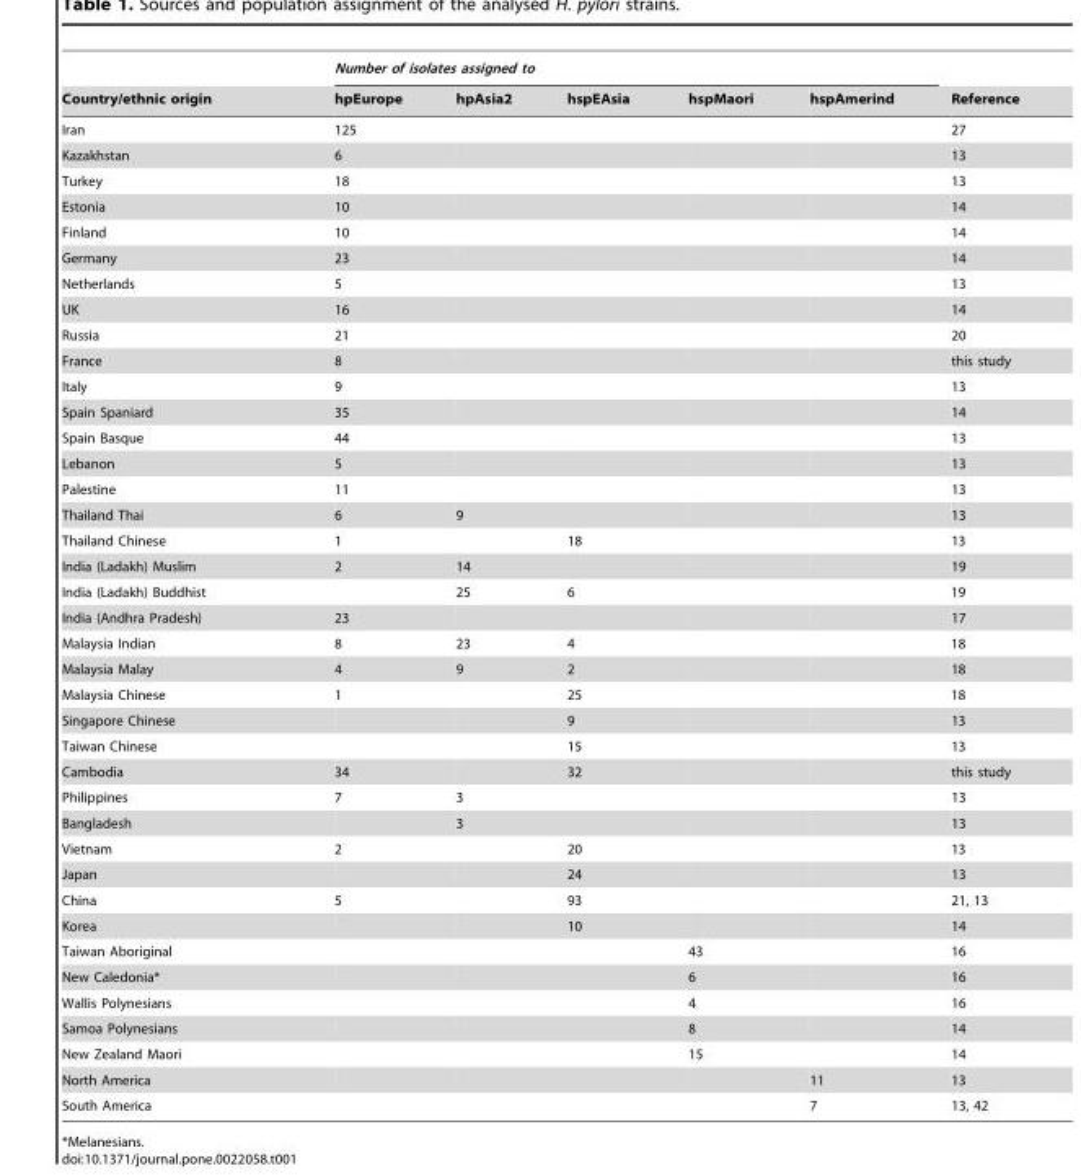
<table><thead><tr><td rowspan="2">Country/ethnic origin</td><td colspan="5">Number of isolates assigned to</td><td rowspan="2">Reference</td></tr><tr><td>hpEurope</td><td>hpAsia2</td><td>hspEAsia</td><td>hspMaori</td><td>hspAmerind</td></tr></thead><tbody><tr><td>Iran</td><td>125</td><td></td><td></td><td></td><td></td><td>27</td></tr><tr><td>Kazakhstan</td><td>6</td><td></td><td></td><td></td><td></td><td>13</td></tr><tr><td>Turkey</td><td>18</td><td></td><td></td><td></td><td></td><td>13</td></tr><tr><td>Estonia</td><td>10</td><td></td><td></td><td></td><td></td><td>14</td></tr><tr><td>Finland</td><td>10</td><td></td><td></td><td></td><td></td><td>14</td></tr><tr><td>Germany</td><td>23</td><td></td><td></td><td></td><td></td><td>14</td></tr><tr><td>Netherlands</td><td>5</td><td></td><td></td><td></td><td></td><td>13</td></tr><tr><td>UK</td><td>16</td><td></td><td></td><td></td><td></td><td>14</td></tr><tr><td>Russia</td><td>21</td><td></td><td></td><td></td><td></td><td>20</td></tr><tr><td>France</td><td>8</td><td></td><td></td><td></td><td></td><td>this study</td></tr><tr><td>Italy</td><td>9</td><td></td><td></td><td></td><td></td><td>13</td></tr><tr><td>Spain Spaniard</td><td>35</td><td></td><td></td><td></td><td></td><td>14</td></tr><tr><td>Spain Basque</td><td>44</td><td></td><td></td><td></td><td></td><td>13</td></tr><tr><td>Lebanon</td><td>5</td><td></td><td></td><td></td><td></td><td>13</td></tr><tr><td>Palestine</td><td>11</td><td></td><td></td><td></td><td></td><td>13</td></tr><tr><td>Thailand Thai</td><td>6</td><td>9</td><td></td><td></td><td></td><td>13</td></tr><tr><td>Thailand Chinese</td><td>1</td><td></td><td>18</td><td></td><td></td><td>13</td></tr><tr><td>India (Ladakh) Muslim</td><td>2</td><td>14</td><td></td><td></td><td></td><td>19</td></tr><tr><td>India (Ladakh) Buddhist</td><td></td><td>25</td><td>6</td><td></td><td></td><td>19</td></tr><tr><td>India (Andhra Pradesh)</td><td>23</td><td></td><td></td><td></td><td></td><td>17</td></tr><tr><td>Malaysia Indian</td><td>8</td><td>23</td><td>4</td><td></td><td></td><td>18</td></tr><tr><td>Malaysia Malay</td><td>4</td><td>9</td><td>2</td><td></td><td></td><td>18</td></tr><tr><td>Malaysia Chinese</td><td>1</td><td></td><td>25</td><td></td><td></td><td>18</td></tr><tr><td>Singapore Chinese</td><td></td><td></td><td>9</td><td></td><td></td><td>13</td></tr><tr><td>Taiwan Chinese</td><td></td><td></td><td>15</td><td></td><td></td><td>13</td></tr><tr><td>Cambodia</td><td>34</td><td></td><td>32</td><td></td><td></td><td>this study</td></tr><tr><td>Philippines</td><td>7</td><td>3</td><td></td><td></td><td></td><td>13</td></tr><tr><td>Bangladesh</td><td></td><td>3</td><td></td><td></td><td></td><td>13</td></tr><tr><td>Vietnam</td><td>2</td><td></td><td>20</td><td></td><td></td><td>13</td></tr><tr><td>Japan</td><td></td><td></td><td>24</td><td></td><td></td><td>13</td></tr><tr><td>China</td><td>5</td><td></td><td>93</td><td></td><td></td><td>21, 13</td></tr><tr><td>Korea</td><td></td><td></td><td>10</td><td></td><td></td><td>14</td></tr><tr><td>Taiwan Aboriginal</td><td></td><td></td><td></td><td>43</td><td></td><td>16</td></tr><tr><td>New Caledonia*</td><td></td><td></td><td></td><td>6</td><td></td><td>16</td></tr><tr><td>Wallis Polynesians</td><td></td><td></td><td></td><td>4</td><td></td><td>16</td></tr><tr><td>Samoa Polynesians</td><td></td><td></td><td></td><td>8</td><td></td><td>14</td></tr><tr><td>New Zealand Maori</td><td></td><td></td><td></td><td>15</td><td></td><td>14</td></tr><tr><td>North America</td><td></td><td></td><td></td><td></td><td>11</td><td>13</td></tr><tr><td>South America</td><td></td><td></td><td></td><td></td><td>7</td><td>13, 42</td></tr></tbody></table>